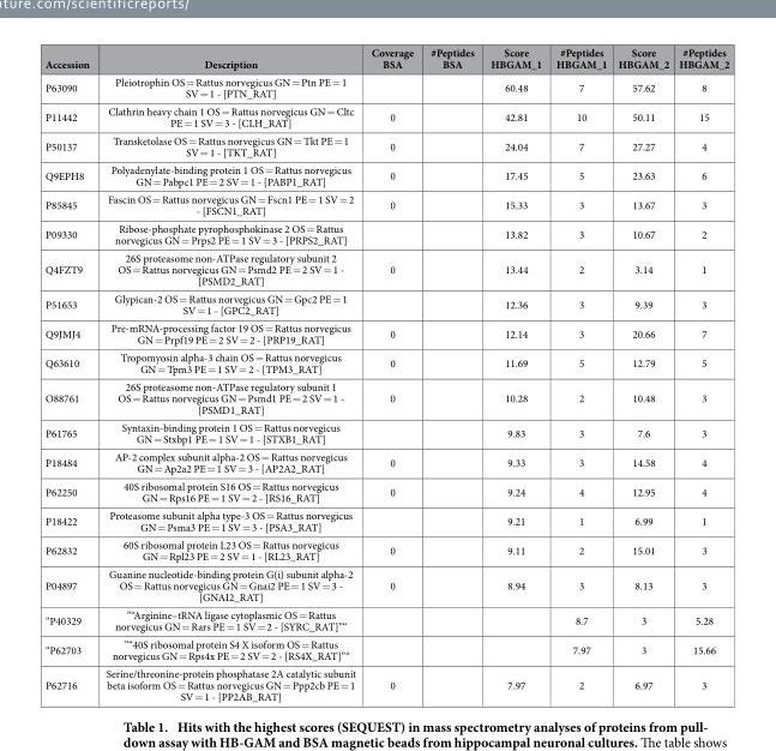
<table><thead><tr><td>Accession</td><td>Description</td><td>Coverage BSA</td><td>#Peptides BSA</td><td>Score HBGAM_1</td><td>#Peptides HBGAM_1</td><td>Score HBGAM_2</td><td>#Peptides HBGAM_2</td></tr></thead><tbody><tr><td>P63090</td><td>Pleiotrophin OS = Rattus norvegicus GN = Ptn PE = 1 SV = 1 - [PTN_RAT]</td><td></td><td></td><td>60.48</td><td>7</td><td>57.62</td><td>8</td></tr><tr><td>P11442</td><td>Clathrin heavy chain 1 OS = Rattus norvegicus GN = Cltc PE = 1 SV = 3 - [CLH_RAT]</td><td>0</td><td></td><td>42.81</td><td>10</td><td>50.11</td><td>15</td></tr><tr><td>P50137</td><td>Transketolase OS = Rattus norvegicus GN = Tkt PE = 1 SV = 1 - [TKT_RAT]</td><td>0</td><td></td><td>24.04</td><td>7</td><td>27.27</td><td>4</td></tr><tr><td>Q9EPH8</td><td>Polyadenylate-binding protein 1 OS = Rattus norvegicus GN = Pabpc1 PE = 2 SV = 1 - [PABP1_RAT]</td><td>0</td><td></td><td>17.45</td><td>5</td><td>23.63</td><td>6</td></tr><tr><td>P85845</td><td>Fascin OS = Rattus norvegicus GN = Fscn1 PE = 1 SV = 2 - [FSCN1_RAT]</td><td>0</td><td></td><td>15.33</td><td>3</td><td>13.67</td><td>3</td></tr><tr><td>P09330</td><td>Ribose-phosphate pyrophosphokinase 2 OS = Rattus norvegicus GN = Prps2 PE = 1 SV = 3 - [PRPS2_RAT]</td><td></td><td></td><td>13.82</td><td>3</td><td>10.67</td><td>2</td></tr><tr><td>Q4FZT9</td><td>26S proteasome non-ATPase regulatory subunit 2 OS = Rattus norvegicus GN = Psmd2 PE = 2 SV = 1 - [PSMD2_RAT]</td><td>0</td><td></td><td>13.44</td><td>2</td><td>3.14</td><td>1</td></tr><tr><td>P51653</td><td>Glypican-2 OS = Rattus norvegicus GN = Gpc2 PE = 1 SV = 1 - [GPC2_RAT]</td><td></td><td></td><td>12.36</td><td>3</td><td>9.39</td><td>3</td></tr><tr><td>Q9JMJ4</td><td>Pre-mRNA-processing factor 19 OS = Rattus norvegicus GN = Prpf19 PE = 2 SV = 2 - [PRP19_RAT]</td><td>0</td><td></td><td>12.14</td><td>3</td><td>20.66</td><td>7</td></tr><tr><td>Q63610</td><td>Tropomyosin alpha-3 chain OS = Rattus norvegicus GN = Tpm3 PE = 1 SV = 2 - [TPM3_RAT]</td><td>0</td><td></td><td>11.69</td><td>5</td><td>12.79</td><td>5</td></tr><tr><td>O88761</td><td>26S proteasome non-ATPase regulatory subunit 1 OS = Rattus norvegicus GN = Psmd1 PE = 2 SV = 1 - [PSMD1_RAT]</td><td>0</td><td></td><td>10.28</td><td>2</td><td>10.48</td><td>3</td></tr><tr><td>P61765</td><td>Syntaxin-binding protein 1 OS = Rattus norvegicus GN = Stxbp1 PE = 1 SV = 1 - [STXB1_RAT]</td><td></td><td></td><td>9.83</td><td>3</td><td>7.6</td><td>3</td></tr><tr><td>P18484</td><td>AP-2 complex subunit alpha-2 OS = Rattus norvegicus GN = Ap2a2 PE = 1 SV = 3 - [AP2A2_RAT]</td><td>0</td><td></td><td>9.33</td><td>3</td><td>14.58</td><td>4</td></tr><tr><td>P62250</td><td>40S ribosomal protein S16 OS = Rattus norvegicus GN = Rps16 PE = 1 SV = 2 - [RS16_RAT]</td><td>0</td><td></td><td>9.24</td><td>4</td><td>12.95</td><td>4</td></tr><tr><td>P18422</td><td>Proteasome subunit alpha type-3 OS = Rattus norvegicus GN = Psma3 PE = 1 SV = 3 - [PSA3_RAT]</td><td></td><td></td><td>9.21</td><td>1</td><td>6.99</td><td>1</td></tr><tr><td>P62832</td><td>60S ribosomal protein L23 OS = Rattus norvegicus GN = Rpl23 PE = 2 SV = 1 - [RL23_RAT]</td><td>0</td><td></td><td>9.11</td><td>2</td><td>15.01</td><td>3</td></tr><tr><td>P04897</td><td>Guanine nucleotide-binding protein G(i) subunit alpha-2 OS = Rattus norvegicus GN = Gnai2 PE = 1 SV = 3 - [GNAI2_RAT]</td><td>0</td><td></td><td>8.94</td><td>3</td><td>8.13</td><td>3</td></tr><tr><td>“P40329</td><td>”“Arginine–tRNA ligase cytoplasmic OS = Rattus norvegicus GN = Rars PE = 1 SV = 2 - [SYRC_RAT]”“</td><td></td><td></td><td></td><td>8.7</td><td>3</td><td>5.28</td></tr><tr><td>“P62703</td><td>”“40S ribosomal protein S4 X isoform OS = Rattus norvegicus GN = Rps4x PE = 2 SV = 2 - [RS4X_RAT]”“</td><td></td><td></td><td></td><td>7.97</td><td>3</td><td>15.66</td></tr><tr><td>P62716</td><td>Serine/threonine-protein phosphatase 2A catalytic subunit beta isoform OS = Rattus norvegicus GN = Ppp2cb PE = 1 SV = 1 - [PP2AB_RAT]</td><td>0</td><td></td><td>7.97</td><td>2</td><td>6.97</td><td>3</td></tr></tbody></table>